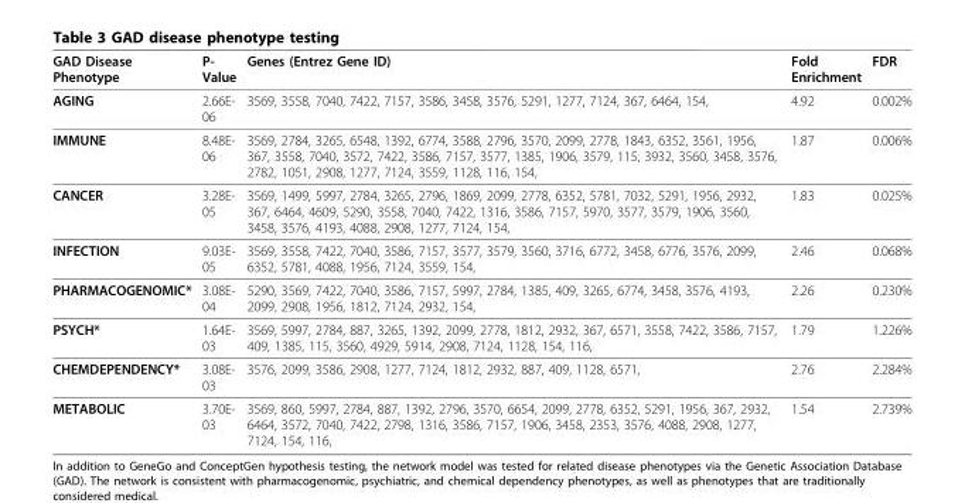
<table><tbody><tr><td>GAD Disease Phenotype</td><td>P- Value</td><td>Genes (Entrez Gene ID)</td><td>Fold Enrichment</td><td>FDR</td></tr><tr><td>AGING</td><td>2.66E- 06</td><td>3569, 3558, 7040, 7422, 7157, 3586, 3458, 3576, 5291, 1277, 7124, 367, 6464, 154,</td><td>4.92</td><td>0.002%</td></tr><tr><td>IMMUNE</td><td>8.48E- 06</td><td>3569, 2784, 3265, 6548, 1392, 6774, 3588, 2796, 3570, 2099, 2778, 1843, 6352, 3561, 1956, 367, 3558, 7040, 3572, 7422, 3586, 7157, 3577, 1385, 1906, 3579, 115, 3932, 3560, 3458, 3576, 2782, 1051, 2908, 1277, 7124, 3559, 1128, 116, 154,</td><td>1.87</td><td>0.006%</td></tr><tr><td>CANCER</td><td>3.28E- 05</td><td>3569, 1499, 5997, 2784, 3265, 2796, 1869, 2099, 2778, 6352, 5781, 7032, 5291, 1956, 2932, 367, 6464, 4609, 5290, 3558, 7040, 7422, 1316, 3586, 7157, 5970, 3577, 3579, 1906, 3560, 3458, 3576, 4193, 4088, 2908, 1277, 7124, 154,</td><td>1.83</td><td>0.025%</td></tr><tr><td>INFECTION</td><td>9.03E- 05</td><td>3569, 3558, 7422, 7040, 3586, 7157, 3577, 3579, 3560, 3716, 6772, 3458, 6776, 3576, 2099, 6352, 5781, 4088, 1956, 7124, 3559, 154,</td><td>2.46</td><td>0.068%</td></tr><tr><td>PHARMACOGENOMIC*</td><td>3.08E- 04</td><td>5290, 3569, 7422, 7040, 3586, 7157, 5997, 2784, 1385, 409, 3265, 6774, 3458, 3576, 4193, 2099, 2908, 1956, 1812, 7124, 2932, 154,</td><td>2.26</td><td>0.230%</td></tr><tr><td>PSYCH*</td><td>1.64E- 03</td><td>3569, 5997, 2784, 887, 3265, 1392, 2099, 2778, 1812, 2932, 367, 6571, 3558, 7422, 3586, 7157, 409, 1385, 115, 3560, 4929, 5914, 2908, 7124, 1128, 154, 116,</td><td>1.79</td><td>1.226%</td></tr><tr><td>CHEMDEPENDENCY*</td><td>3.08E- 03</td><td>3576, 2099, 3586, 2908, 1277, 7124, 1812, 2932, 887, 409, 1128, 6571,</td><td>2.76</td><td>2.284%</td></tr><tr><td>METABOLIC</td><td>3.70E- 03</td><td>3569, 860, 5997, 2784, 887, 1392, 2796, 3570, 6654, 2099, 2778, 6352, 5291, 1956, 367, 2932, 6464, 3572, 7040, 7422, 2798, 1316, 3586, 7157, 1906, 3458, 2353, 3576, 4088, 2908, 1277, 7124, 154, 116,</td><td>1.54</td><td>2.739%</td></tr></tbody></table>